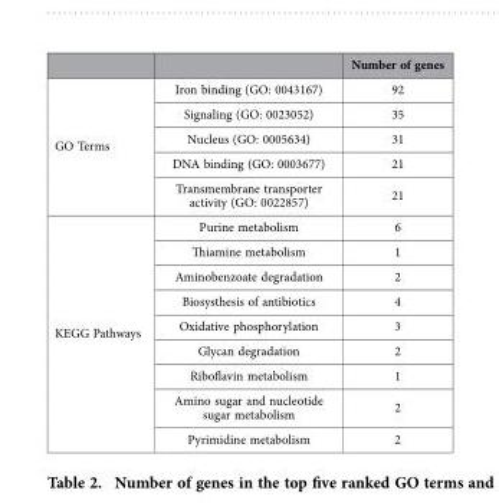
<table><thead><tr><td></td><td></td><td>Number of genes</td></tr></thead><tbody><tr><td rowspan="5">GO Terms</td><td>Iron binding (GO: 0043167)</td><td>92</td></tr><tr><td>Signaling (GO: 0023052)</td><td>35</td></tr><tr><td>Nucleus (GO: 0005634)</td><td>31</td></tr><tr><td>DNA binding (GO: 0003677)</td><td>21</td></tr><tr><td>Transmembrane transporter activity (GO: 0022857)</td><td>21</td></tr><tr><td rowspan="9">KEGG Pathways</td><td>Purine metabolism</td><td>6</td></tr><tr><td>Thiamine metabolism</td><td>1</td></tr><tr><td>Aminobenzoate degradation</td><td>2</td></tr><tr><td>Biosysthesis of antibiotics</td><td>4</td></tr><tr><td>Oxidative phosphorylation</td><td>3</td></tr><tr><td>Glycan degradation</td><td>2</td></tr><tr><td>Riboflavin metabolism</td><td>1</td></tr><tr><td>Amino sugar and nucleotide sugar metabolism</td><td>2</td></tr><tr><td>Pyrimidine metabolism</td><td>2</td></tr></tbody></table>